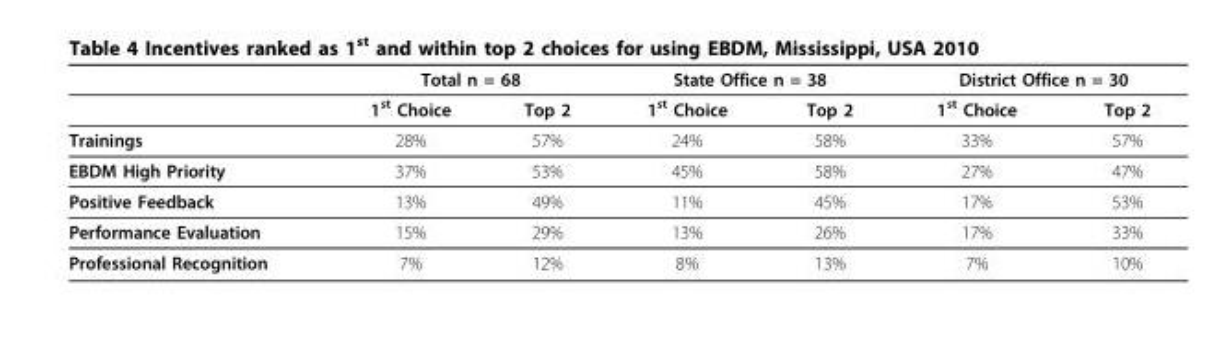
<table><thead><tr><td rowspan="2"></td><td colspan="2">Total n = 68</td><td colspan="2">State Office n = 38</td><td colspan="2">District Office n = 30</td></tr><tr><td>1<sup>st</sup> Choice</td><td>Top 2</td><td>1<sup>st</sup> Choice</td><td>Top 2</td><td>1<sup>st</sup> Choice</td><td>Top 2</td></tr></thead><tbody><tr><td>Trainings</td><td>28%</td><td>57%</td><td>24%</td><td>58%</td><td>33%</td><td>57%</td></tr><tr><td>EBDM High Priority</td><td>37%</td><td>53%</td><td>45%</td><td>58%</td><td>27%</td><td>47%</td></tr><tr><td>Positive Feedback</td><td>13%</td><td>49%</td><td>11%</td><td>45%</td><td>17%</td><td>53%</td></tr><tr><td>Performance Evaluation</td><td>15%</td><td>29%</td><td>13%</td><td>26%</td><td>17%</td><td>33%</td></tr><tr><td>Professional Recognition</td><td>7%</td><td>12%</td><td>8%</td><td>13%</td><td>7%</td><td>10%</td></tr></tbody></table>